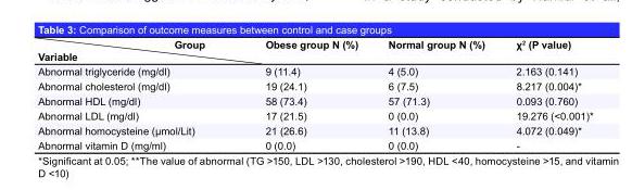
<table><thead><tr><td>Group Variable</td><td>Obese group N (%)</td><td>Normal group N (%)</td><td>χ<sup>2</sup> (P value)</td></tr></thead><tbody><tr><td>Abnormal triglyceride (mg/dl)</td><td>9 (11.4)</td><td>4 (5.0)</td><td>2.163 (0.141)</td></tr><tr><td>Abnormal cholesterol (mg/dl)</td><td>19 (24.1)</td><td>6 (7.5)</td><td>8.217 (0.004)*</td></tr><tr><td>Abnormal HDL (mg/dl)</td><td>58 (73.4)</td><td>57 (71.3)</td><td>0.093 (0.760)</td></tr><tr><td>Abnormal LDL (mg/dl)</td><td>17 (21.5)</td><td>0 (0.0)</td><td>19.276 (&lt;0.001)*</td></tr><tr><td>Abnormal homocysteine (µmol/Lit)</td><td>21 (26.6)</td><td>11 (13.8)</td><td>4.072 (0.049)*</td></tr><tr><td>Abnormal vitamin D (mg/ml)</td><td>0 (0.0)</td><td>0 (0.0)</td><td>-</td></tr></tbody></table>